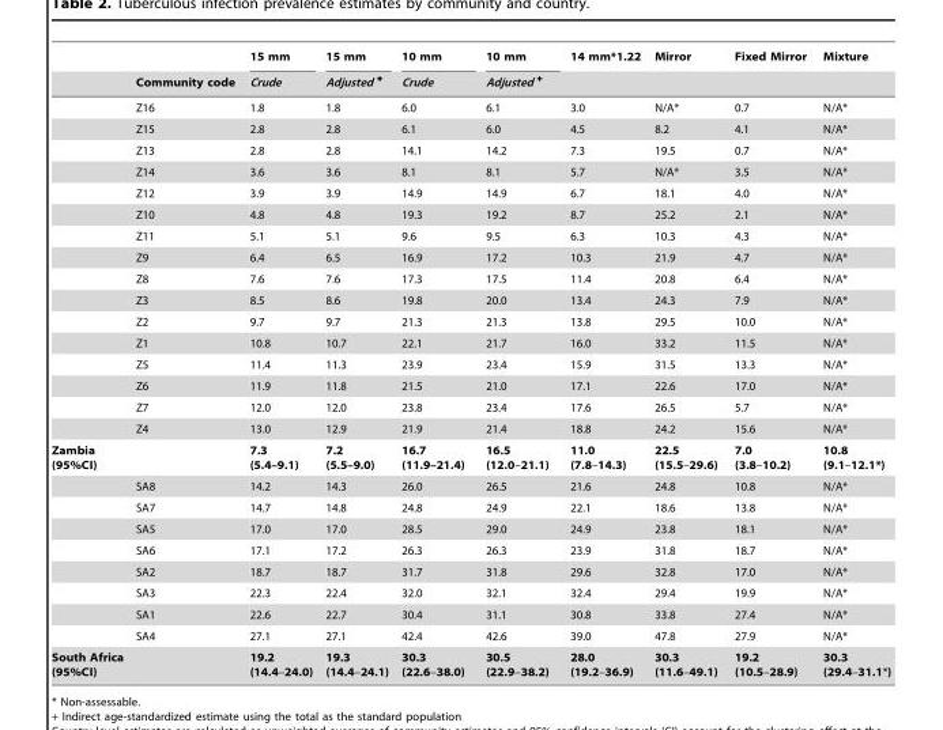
<table><thead><tr><td rowspan="2"></td><td rowspan="2">Community code</td><td rowspan="2">15 mm Crude</td><td rowspan="2">15 mm Adjusted +</td><td rowspan="2">10 mm Crude</td><td rowspan="2">10 mm Adjusted +</td><td rowspan="2">14 mm*1.22</td><td rowspan="2">Mirror</td><td rowspan="2">Fixed Mirror</td><td rowspan="2">Mixture</td></tr><tr></tr></thead><tbody><tr><td></td><td>Z16</td><td>1.8</td><td>1.8</td><td>6.0</td><td>6.1</td><td>3.0</td><td>N/A*</td><td>0.7</td><td>N/A*</td></tr><tr><td></td><td>Z15</td><td>2.8</td><td>2.8</td><td>6.1</td><td>6.0</td><td>4.5</td><td>8.2</td><td>4.1</td><td>N/A*</td></tr><tr><td></td><td>Z13</td><td>2.8</td><td>2.8</td><td>14.1</td><td>14.2</td><td>7.3</td><td>19.5</td><td>0.7</td><td>N/A*</td></tr><tr><td></td><td>Z14</td><td>3.6</td><td>3.6</td><td>8.1</td><td>8.1</td><td>5.7</td><td>N/A*</td><td>3.5</td><td>N/A*</td></tr><tr><td></td><td>Z12</td><td>3.9</td><td>3.9</td><td>14.9</td><td>14.9</td><td>6.7</td><td>18.1</td><td>4.0</td><td>N/A*</td></tr><tr><td></td><td>Z10</td><td>4.8</td><td>4.8</td><td>19.3</td><td>19.2</td><td>8.7</td><td>25.2</td><td>2.1</td><td>N/A*</td></tr><tr><td></td><td>Z11</td><td>5.1</td><td>5.1</td><td>9.6</td><td>9.5</td><td>6.3</td><td>10.3</td><td>4.3</td><td>N/A*</td></tr><tr><td></td><td>Z9</td><td>6.4</td><td>6.5</td><td>16.9</td><td>17.2</td><td>10.3</td><td>21.9</td><td>4.7</td><td>N/A*</td></tr><tr><td></td><td>Z8</td><td>7.6</td><td>7.6</td><td>17.3</td><td>17.5</td><td>11.4</td><td>20.8</td><td>6.4</td><td>N/A*</td></tr><tr><td></td><td>Z3</td><td>8.5</td><td>8.6</td><td>19.8</td><td>20.0</td><td>13.4</td><td>24.3</td><td>7.9</td><td>N/A*</td></tr><tr><td></td><td>Z2</td><td>9.7</td><td>9.7</td><td>21.3</td><td>21.3</td><td>13.8</td><td>29.5</td><td>10.0</td><td>N/A*</td></tr><tr><td></td><td>Z1</td><td>10.8</td><td>10.7</td><td>22.1</td><td>21.7</td><td>16.0</td><td>33.2</td><td>11.5</td><td>N/A*</td></tr><tr><td></td><td>Z5</td><td>11.4</td><td>11.3</td><td>23.9</td><td>23.4</td><td>15.9</td><td>31.5</td><td>13.3</td><td>N/A*</td></tr><tr><td></td><td>Z6</td><td>11.9</td><td>11.8</td><td>21.5</td><td>21.0</td><td>17.1</td><td>22.6</td><td>17.0</td><td>N/A*</td></tr><tr><td></td><td>Z7</td><td>12.0</td><td>12.0</td><td>23.8</td><td>23.4</td><td>17.6</td><td>26.5</td><td>5.7</td><td>N/A*</td></tr><tr><td></td><td>Z4</td><td>13.0</td><td>12.9</td><td>21.9</td><td>21.4</td><td>18.8</td><td>24.2</td><td>15.6</td><td>N/A*</td></tr><tr><td rowspan="9">Zambia (95%CI)</td><td></td><td>7.3 (5.4–9.1)</td><td>7.2 (5.5–9.0)</td><td>16.7 (11.9–21.4)</td><td>16.5 (12.0–21.1)</td><td>11.0 (7.8–14.3)</td><td>22.5 (15.5–29.6)</td><td>7.0 (3.8–10.2)</td><td>10.8 (9.1–12.1*)</td></tr><tr><td>SA8</td><td>14.2</td><td>14.3</td><td>26.0</td><td>26.5</td><td>21.6</td><td>24.8</td><td>10.8</td><td>N/A*</td></tr><tr><td>SA7</td><td>14.7</td><td>14.8</td><td>24.8</td><td>24.9</td><td>22.1</td><td>18.6</td><td>13.8</td><td>N/A*</td></tr><tr><td>SA5</td><td>17.0</td><td>17.0</td><td>28.5</td><td>29.0</td><td>24.9</td><td>23.8</td><td>18.1</td><td>N/A*</td></tr><tr><td>SA6</td><td>17.1</td><td>17.2</td><td>26.3</td><td>26.3</td><td>23.9</td><td>31.8</td><td>18.7</td><td>N/A*</td></tr><tr><td>SA2</td><td>18.7</td><td>18.7</td><td>31.7</td><td>31.8</td><td>29.6</td><td>32.8</td><td>17.0</td><td>N/A*</td></tr><tr><td>SA3</td><td>22.3</td><td>22.4</td><td>32.0</td><td>32.1</td><td>32.4</td><td>29.4</td><td>19.9</td><td>N/A*</td></tr><tr><td>SA1</td><td>22.6</td><td>22.7</td><td>30.4</td><td>31.1</td><td>30.8</td><td>33.8</td><td>27.4</td><td>N/A*</td></tr><tr><td>SA4</td><td>27.1</td><td>27.1</td><td>42.4</td><td>42.6</td><td>39.0</td><td>47.8</td><td>27.9</td><td>N/A*</td></tr><tr><td>South Africa (95%CI)</td><td></td><td>19.2 (14.4–24.0)</td><td>19.3 (14.4–24.1)</td><td>30.3 (22.6–38.0)</td><td>30.5 (22.9–38.2)</td><td>28.0 (19.2–36.9)</td><td>30.3 (11.6–49.1)</td><td>19.2 (10.5–28.9)</td><td>30.3 (29.4–31.1*)</td></tr></tbody></table>